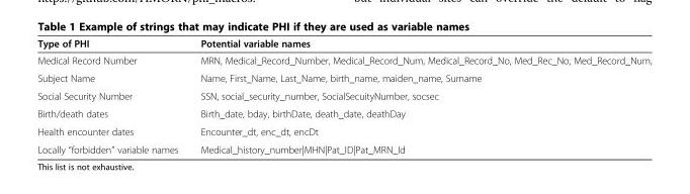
<table><thead><tr><td>Type of PHI</td><td>Potential variable names</td></tr></thead><tbody><tr><td>Medical Record Number</td><td>MRN, Medical_Record_Number, Medical_Record_Num, Medical_Record_No, Med_Rec_No, Med_Record_Num,</td></tr><tr><td>Subject Name</td><td>Name, First_Name, Last_Name, birth_name, maiden_name, Surname</td></tr><tr><td>Social Security Number</td><td>SSN, social_security_number, SocialSecuityNumber, socsec</td></tr><tr><td>Birth/death dates</td><td>Birth_date, bday, birthDate, death_date, deathDay</td></tr><tr><td>Health encounter dates</td><td>Encounter_dt, enc_dt, encDt</td></tr><tr><td>Locally “forbidden” variable names</td><td>Medical_history_number|MHN|Pat_ID|Pat_MRN_Id</td></tr></tbody></table>